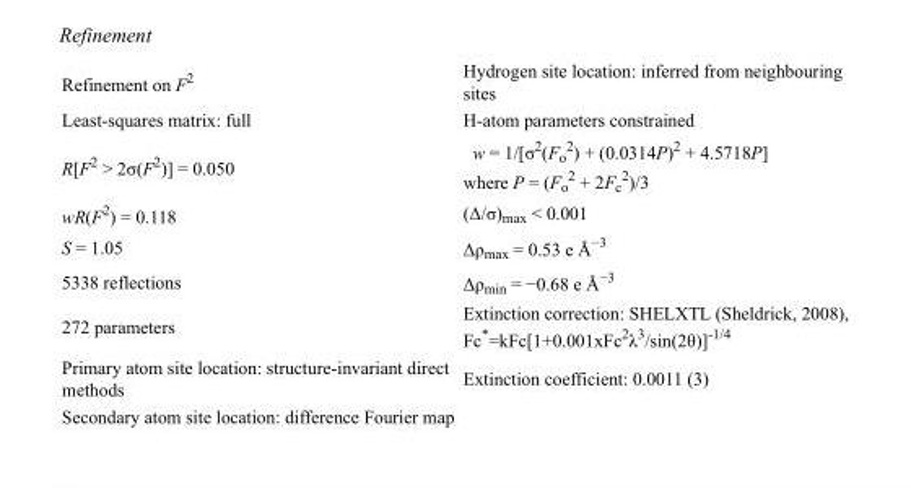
<table><tbody><tr><td>Refinement on F<sup>2</sup></td><td>Hydrogen site location: inferred from neighbouring sites</td></tr><tr><td>Least-squares matrix: full</td><td>H-atom parameters constrained</td></tr><tr><td>R[F<sup>2</sup> &gt; 2σ(F<sup>2</sup>)] = 0.050</td><td>w = 1/[σ<sup>2</sup>(F<sub>o</sub> <sup>2</sup>) + (0.0314P)<sup>2</sup> + 4.5718P] where P = (F<sub>o</sub> <sup>2</sup> + 2F<sub>c</sub> <sup>2</sup>)/3</td></tr><tr><td>wR(F<sup>2</sup>) = 0.118</td><td>(Δ/σ)<sub>max</sub> &lt; 0.001</td></tr><tr><td>S = 1.05</td><td>Δρ<sub>max</sub> = 0.53 e Å<sup>−3</sup></td></tr><tr><td>5338 reflections</td><td>Δρ<sub>min</sub> = −0.68 e Å<sup>−3</sup></td></tr><tr><td>272 parameters</td><td>Extinction correction: SHELXTL (Sheldrick, 2008), Fc*=kFc[1+0.001xFc<sup>2</sup>λ<sup>3</sup>/sin(2θ)]<sup>-1/4</sup></td></tr><tr><td>Primary atom site location: structure-invariant direct methods</td><td>Extinction coefficient: 0.0011 (3)</td></tr><tr><td>Secondary atom site location: difference Fourier map</td><td></td></tr></tbody></table>